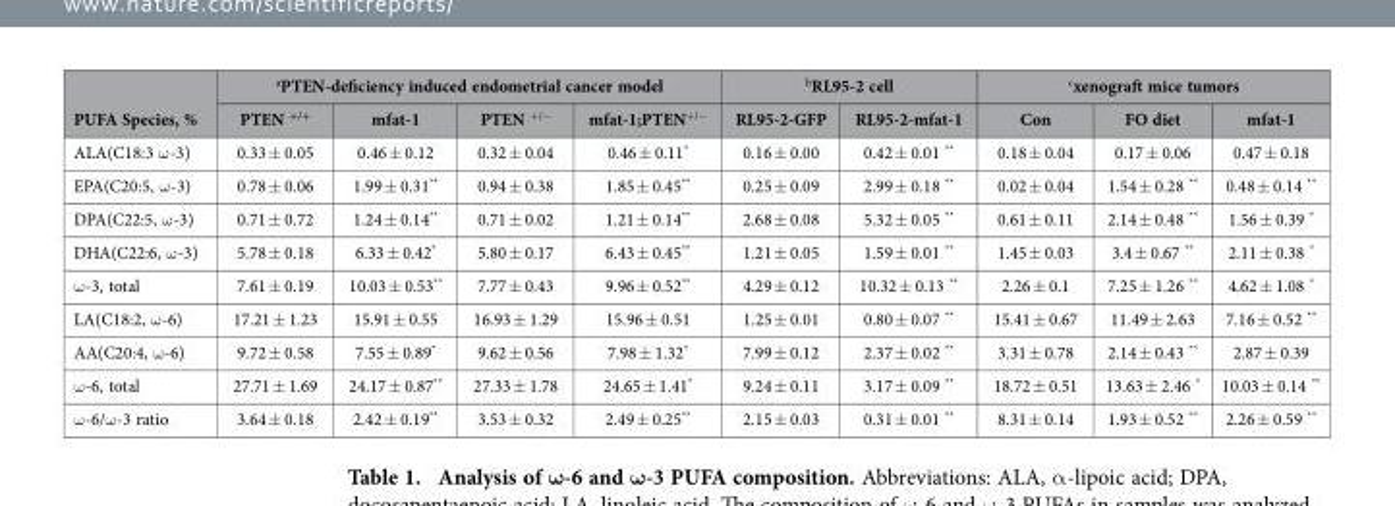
<table><thead><tr><td rowspan="2">PUFA Species, %</td><td colspan="4">aPTEN-deficiency induced endometrial cancer model</td><td colspan="2">bRL95-2 cell</td><td colspan="3">cxenograft mice tumors</td></tr><tr><td>PTEN <sup>+/+</sup></td><td>mfat-1</td><td>PTEN <sup>+/−</sup></td><td>mfat-1;PTEN<sup>+/−</sup></td><td>RL95-2-GFP</td><td>RL95-2-mfat-1</td><td>Con</td><td>FO diet</td><td>mfat-1</td></tr></thead><tbody><tr><td>ALA(C18:3 ω -3)</td><td>0.33 ± 0.05</td><td>0.46 ± 0.12</td><td>0.32 ± 0.04</td><td>0.46 ± 0.11*</td><td>0.16 ± 0.00</td><td>0.42 ± 0.01 **</td><td>0.18 ± 0.04</td><td>0.17 ± 0.06</td><td>0.47 ± 0.18</td></tr><tr><td>EPA(C20:5, ω -3)</td><td>0.78 ± 0.06</td><td>1.99 ± 0.31**</td><td>0.94 ± 0.38</td><td>1.85 ± 0.45**</td><td>0.25 ± 0.09</td><td>2.99 ± 0.18 **</td><td>0.02 ± 0.04</td><td>1.54 ± 0.28 **</td><td>0.48 ± 0.14 **</td></tr><tr><td>DPA(C22:5, ω -3)</td><td>0.71 ± 0.72</td><td>1.24 ± 0.14**</td><td>0.71 ± 0.02</td><td>1.21 ± 0.14**</td><td>2.68 ± 0.08</td><td>5.32 ± 0.05 **</td><td>0.61 ± 0.11</td><td>2.14 ± 0.48 **</td><td>1.56 ± 0.39 *</td></tr><tr><td>DHA(C22:6, ω -3)</td><td>5.78 ± 0.18</td><td>6.33 ± 0.42*</td><td>5.80 ± 0.17</td><td>6.43 ± 0.45**</td><td>1.21 ± 0.05</td><td>1.59 ± 0.01 **</td><td>1.45 ± 0.03</td><td>3.4 ± 0.67 **</td><td>2.11 ± 0.38 *</td></tr><tr><td>ω -3, total</td><td>7.61 ± 0.19</td><td>10.03 ± 0.53**</td><td>7.77 ± 0.43</td><td>9.96 ± 0.52**</td><td>4.29 ± 0.12</td><td>10.32 ± 0.13 **</td><td>2.26 ± 0.1</td><td>7.25 ± 1.26 **</td><td>4.62 ± 1.08 *</td></tr><tr><td>LA(C18:2, ω -6)</td><td>17.21 ± 1.23</td><td>15.91 ± 0.55</td><td>16.93 ± 1.29</td><td>15.96 ± 0.51</td><td>1.25 ± 0.01</td><td>0.80 ± 0.07 **</td><td>15.41 ± 0.67</td><td>11.49 ± 2.63</td><td>7.16 ± 0.52 **</td></tr><tr><td>AA(C20:4, ω -6)</td><td>9.72 ± 0.58</td><td>7.55 ± 0.89*</td><td>9.62 ± 0.56</td><td>7.98 ± 1.32*</td><td>7.99 ± 0.12</td><td>2.37 ± 0.02 **</td><td>3.31 ± 0.78</td><td>2.14 ± 0.43 **</td><td>2.87 ± 0.39</td></tr><tr><td>ω -6, total</td><td>27.71 ± 1.69</td><td>24.17 ± 0.87**</td><td>27.33 ± 1.78</td><td>24.65 ± 1.41*</td><td>9.24 ± 0.11</td><td>3.17 ± 0.09 **</td><td>18.72 ± 0.51</td><td>13.63 ± 2.46 *</td><td>10.03 ± 0.14 **</td></tr><tr><td>ω -6/ω -3 ratio</td><td>3.64 ± 0.18</td><td>2.42 ± 0.19**</td><td>3.53 ± 0.32</td><td>2.49 ± 0.25**</td><td>2.15 ± 0.03</td><td>0.31 ± 0.01 **</td><td>8.31 ± 0.14</td><td>1.93 ± 0.52 **</td><td>2.26 ± 0.59 **</td></tr></tbody></table>